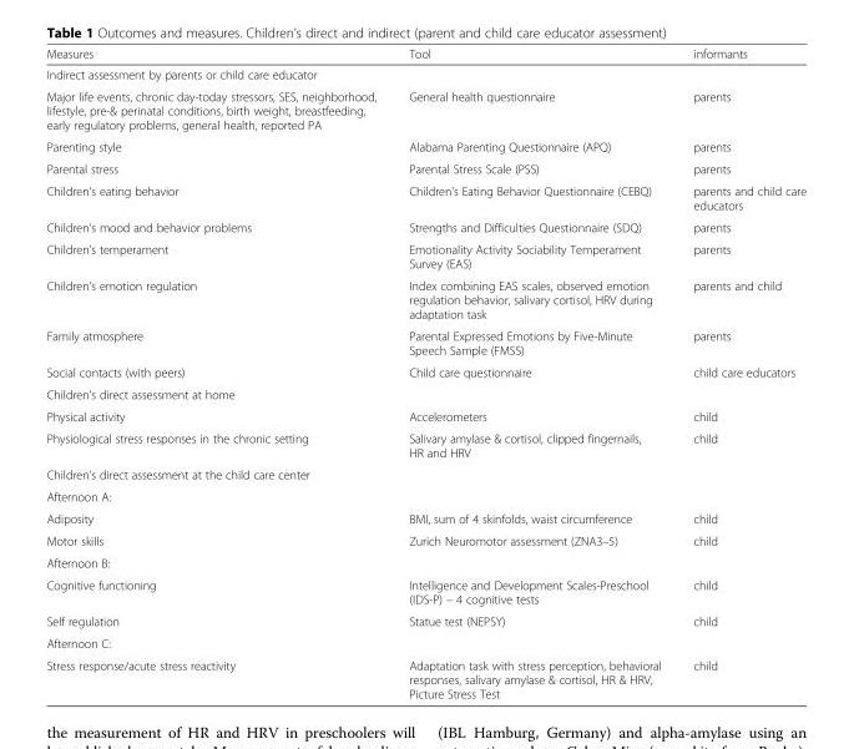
<table><thead><tr><td>Measures</td><td>Tool</td><td>informants</td></tr></thead><tbody><tr><td colspan="3">Indirect assessment by parents or child care educator</td></tr><tr><td>Major life events, chronic day-today stressors, SES, neighborhood, lifestyle, pre-&amp; perinatal conditions, birth weight, breastfeeding, early regulatory problems, general health, reported PA</td><td>General health questionnaire</td><td>parents</td></tr><tr><td>Parenting style</td><td>Alabama Parenting Questionnaire (APQ)</td><td>parents</td></tr><tr><td>Parental stress</td><td>Parental Stress Scale (PSS)</td><td>parents</td></tr><tr><td>Children’s eating behavior</td><td>Children’s Eating Behavior Questionnaire (CEBQ)</td><td>parents and child care educators</td></tr><tr><td>Children’s mood and behavior problems</td><td>Strengths and Difficulties Questionnaire (SDQ)</td><td>parents</td></tr><tr><td>Children’s temperament</td><td>Emotionality Activity Sociability Temperament Survey (EAS)</td><td>parents</td></tr><tr><td>Children’s emotion regulation</td><td>Index combining EAS scales, observed emotion regulation behavior, salivary cortisol, HRV during adaptation task</td><td>parents and child</td></tr><tr><td>Family atmosphere</td><td>Parental Expressed Emotions by Five-Minute Speech Sample (FMSS)</td><td>parents</td></tr><tr><td>Social contacts (with peers)</td><td>Child care questionnaire</td><td>child care educators</td></tr><tr><td colspan="3">Children’s direct assessment at home</td></tr><tr><td>Physical activity</td><td>Accelerometers</td><td>child</td></tr><tr><td>Physiological stress responses in the chronic setting</td><td>Salivary amylase &amp; cortisol, clipped fingernails, HR and HRV</td><td>child</td></tr><tr><td colspan="3">Children’s direct assessment at the child care center</td></tr><tr><td colspan="3">Afternoon A:</td></tr><tr><td>Adiposity</td><td>BMI, sum of 4 skinfolds, waist circumference</td><td>child</td></tr><tr><td>Motor skills</td><td>Zurich Neuromotor assessment (ZNA3–5)</td><td>child</td></tr><tr><td colspan="3">Afternoon B:</td></tr><tr><td>Cognitive functioning</td><td>Intelligence and Development Scales-Preschool (IDS-P) – 4 cognitive tests</td><td>child</td></tr><tr><td>Self regulation</td><td>Statue test (NEPSY)</td><td>child</td></tr><tr><td colspan="3">Afternoon C:</td></tr><tr><td>Stress response/acute stress reactivity</td><td>Adaptation task with stress perception, behavioral responses, salivary amylase &amp; cortisol, HR &amp; HRV, Picture Stress Test</td><td>child</td></tr></tbody></table>